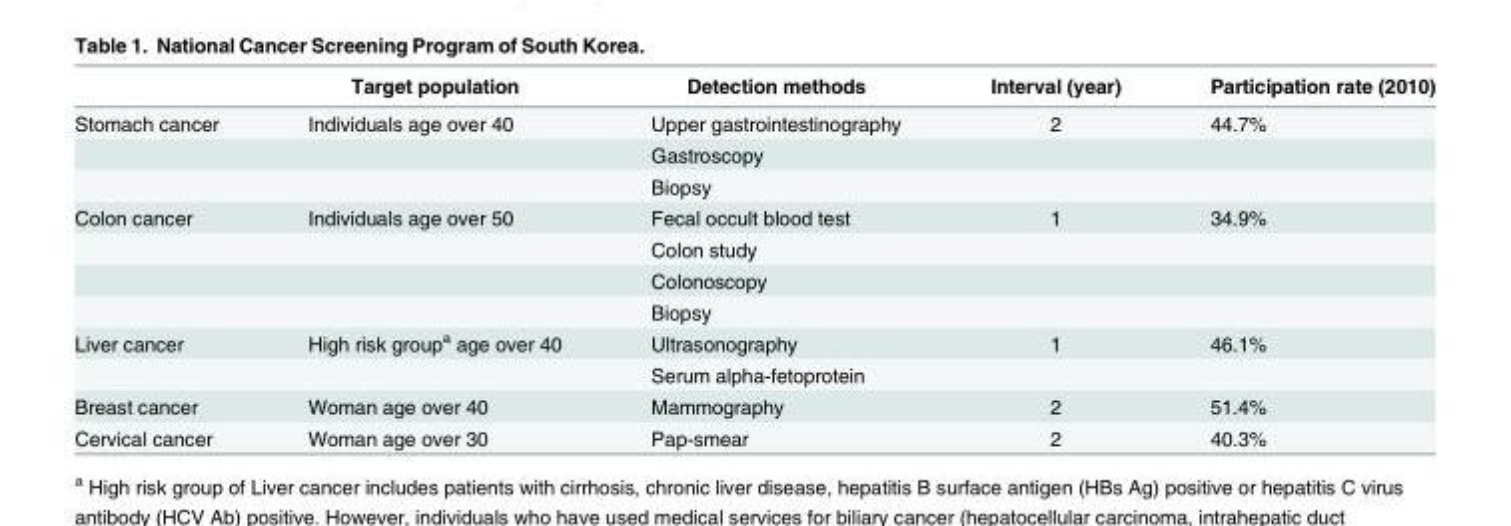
<table><thead><tr><td></td><td>Target population</td><td>Detection methods</td><td>Interval (year)</td><td>Participation rate (2010)</td></tr></thead><tbody><tr><td rowspan="3">Stomach cancer</td><td>Individuals age over 40</td><td>Upper gastrointestinography</td><td>2</td><td>44.7%</td></tr><tr><td></td><td>Gastroscopy</td><td></td><td></td></tr><tr><td></td><td>Biopsy</td><td></td><td></td></tr><tr><td rowspan="4">Colon cancer</td><td>Individuals age over 50</td><td>Fecal occult blood test</td><td>1</td><td>34.9%</td></tr><tr><td></td><td>Colon study</td><td></td><td></td></tr><tr><td></td><td>Colonoscopy</td><td></td><td></td></tr><tr><td></td><td>Biopsy</td><td></td><td></td></tr><tr><td rowspan="2">Liver cancer</td><td>High risk group<sup>a</sup> age over 40</td><td>Ultrasonography</td><td>1</td><td>46.1%</td></tr><tr><td></td><td>Serum alpha-fetoprotein</td><td></td><td></td></tr><tr><td>Breast cancer</td><td>Woman age over 40</td><td>Mammography</td><td>2</td><td>51.4%</td></tr><tr><td>Cervical cancer</td><td>Woman age over 30</td><td>Pap-smear</td><td>2</td><td>40.3%</td></tr></tbody></table>